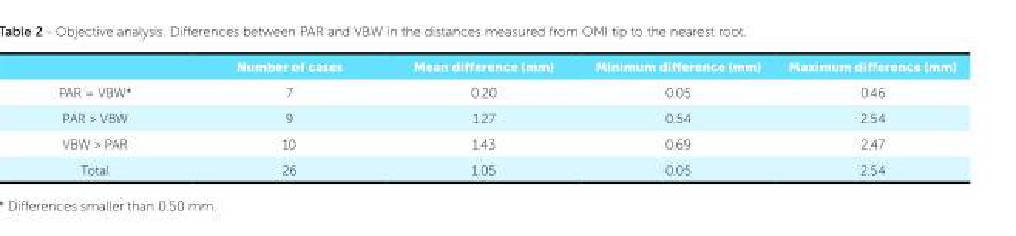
<table><thead><tr><td></td><td>Number of cases</td><td>Mean difference (mm)</td><td>Minimum difference (mm)</td><td>Maximum difference (mm)</td></tr></thead><tbody><tr><td>PAR = VBW*</td><td>7</td><td>0.20</td><td>0.05</td><td>0.46</td></tr><tr><td>PAR &gt; VBW</td><td>9</td><td>1.27</td><td>0.54</td><td>2.54</td></tr><tr><td>VBW &gt; PAR</td><td>10</td><td>1.43</td><td>0.69</td><td>2.47</td></tr><tr><td>Total</td><td>26</td><td>1.05</td><td>0.05</td><td>2.54</td></tr></tbody></table>